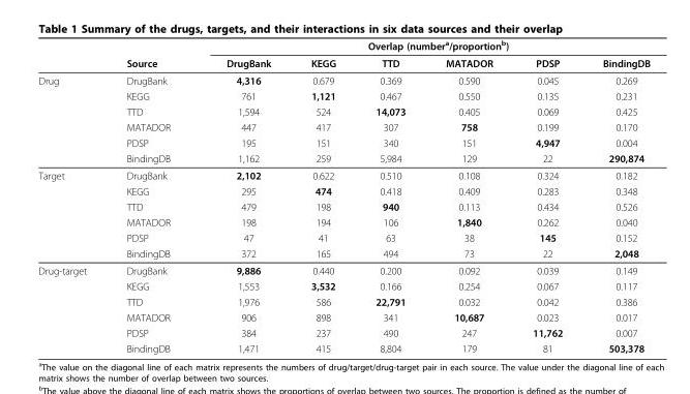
<table><thead><tr><td rowspan="2"></td><td rowspan="2">Source</td><td colspan="6">Overlap (number<sup>a</sup>/proportion<sup>b</sup>)</td></tr><tr><td>DrugBank</td><td>KEGG</td><td>TTD</td><td>MATADOR</td><td>PDSP</td><td>BindingDB</td></tr></thead><tbody><tr><td rowspan="6">Drug</td><td>DrugBank</td><td>4,316</td><td>0.679</td><td>0.369</td><td>0.590</td><td>0.045</td><td>0.269</td></tr><tr><td>KEGG</td><td>761</td><td>1,121</td><td>0.467</td><td>0.550</td><td>0.135</td><td>0.231</td></tr><tr><td>TTD</td><td>1,594</td><td>524</td><td>14,073</td><td>0.405</td><td>0.069</td><td>0.425</td></tr><tr><td>MATADOR</td><td>447</td><td>417</td><td>307</td><td>758</td><td>0.199</td><td>0.170</td></tr><tr><td>PDSP</td><td>195</td><td>151</td><td>340</td><td>151</td><td>4,947</td><td>0.004</td></tr><tr><td>BindingDB</td><td>1,162</td><td>259</td><td>5,984</td><td>129</td><td>22</td><td>290,874</td></tr><tr><td rowspan="6">Target</td><td>DrugBank</td><td>2,102</td><td>0.622</td><td>0.510</td><td>0.108</td><td>0.324</td><td>0.182</td></tr><tr><td>KEGG</td><td>295</td><td>474</td><td>0.418</td><td>0.409</td><td>0.283</td><td>0.348</td></tr><tr><td>TTD</td><td>479</td><td>198</td><td>940</td><td>0.113</td><td>0.434</td><td>0.526</td></tr><tr><td>MATADOR</td><td>198</td><td>194</td><td>106</td><td>1,840</td><td>0.262</td><td>0.040</td></tr><tr><td>PDSP</td><td>47</td><td>41</td><td>63</td><td>38</td><td>145</td><td>0.152</td></tr><tr><td>BindingDB</td><td>372</td><td>165</td><td>494</td><td>73</td><td>22</td><td>2,048</td></tr><tr><td rowspan="6">Drug-target</td><td>DrugBank</td><td>9,886</td><td>0.440</td><td>0.200</td><td>0.092</td><td>0.039</td><td>0.149</td></tr><tr><td>KEGG</td><td>1,553</td><td>3,532</td><td>0.166</td><td>0.254</td><td>0.067</td><td>0.117</td></tr><tr><td>TTD</td><td>1,976</td><td>586</td><td>22,791</td><td>0.032</td><td>0.042</td><td>0.386</td></tr><tr><td>MATADOR</td><td>906</td><td>898</td><td>341</td><td>10,687</td><td>0.023</td><td>0.017</td></tr><tr><td>PDSP</td><td>384</td><td>237</td><td>490</td><td>247</td><td>11,762</td><td>0.007</td></tr><tr><td>BindingDB</td><td>1,471</td><td>415</td><td>8,804</td><td>179</td><td>81</td><td>503,378</td></tr></tbody></table>